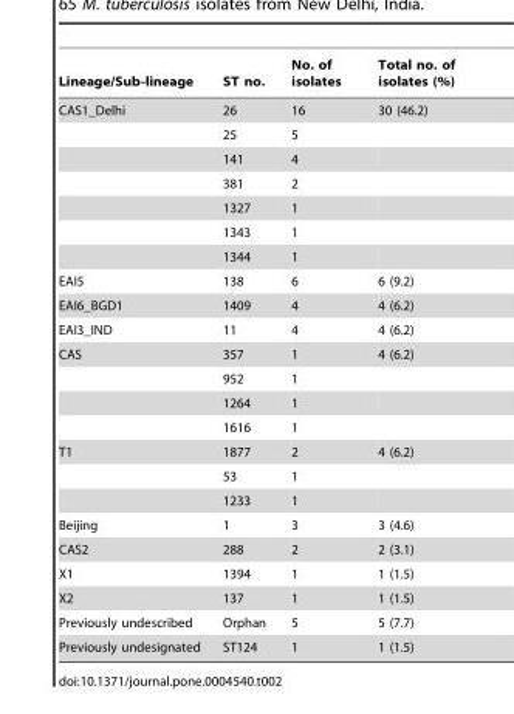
<table><thead><tr><td>Lineage/Sub-lineage</td><td>ST no.</td><td>No. of isolates</td><td>Total no. of isolates (%)</td></tr></thead><tbody><tr><td rowspan="7">CAS1_Delhi</td><td>26</td><td>16</td><td>30 (46.2)</td></tr><tr><td>25</td><td>5</td><td></td></tr><tr><td>141</td><td>4</td><td></td></tr><tr><td>381</td><td>2</td><td></td></tr><tr><td>1327</td><td>1</td><td></td></tr><tr><td>1343</td><td>1</td><td></td></tr><tr><td>1344</td><td>1</td><td></td></tr><tr><td>EAI5</td><td>138</td><td>6</td><td>6 (9.2)</td></tr><tr><td>EAI6_BGD1</td><td>1409</td><td>4</td><td>4 (6.2)</td></tr><tr><td>EAI3_IND</td><td>11</td><td>4</td><td>4 (6.2)</td></tr><tr><td rowspan="4">CAS</td><td>357</td><td>1</td><td>4 (6.2)</td></tr><tr><td>952</td><td>1</td><td></td></tr><tr><td>1264</td><td>1</td><td></td></tr><tr><td>1616</td><td>1</td><td></td></tr><tr><td rowspan="3">T1</td><td>1877</td><td>2</td><td>4 (6.2)</td></tr><tr><td>53</td><td>1</td><td></td></tr><tr><td>1233</td><td>1</td><td></td></tr><tr><td>Beijing</td><td>1</td><td>3</td><td>3 (4.6)</td></tr><tr><td>CAS2</td><td>288</td><td>2</td><td>2 (3.1)</td></tr><tr><td>X1</td><td>1394</td><td>1</td><td>1 (1.5)</td></tr><tr><td>X2</td><td>137</td><td>1</td><td>1 (1.5)</td></tr><tr><td>Previously undescribed</td><td>Orphan</td><td>5</td><td>5 (7.7)</td></tr><tr><td>Previously undesignated</td><td>ST124</td><td>1</td><td>1 (1.5)</td></tr></tbody></table>